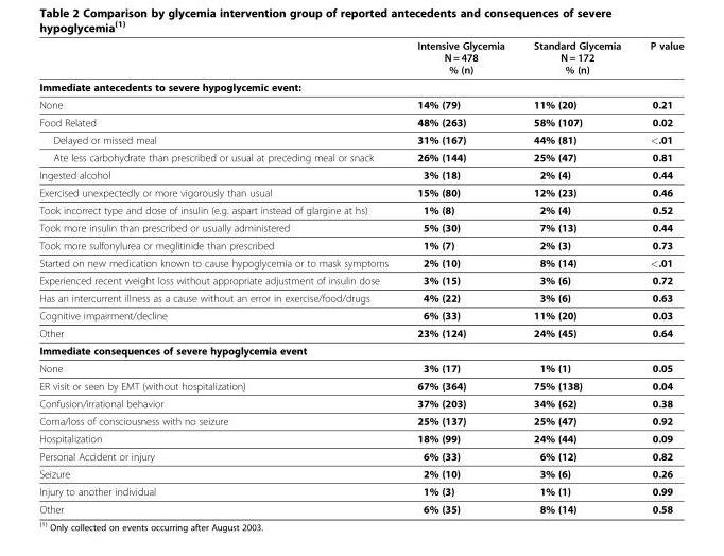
<table><thead><tr><td></td><td>Intensive Glycemia N = 478 % (n)</td><td>Standard Glycemia N = 172 % (n)</td><td>P value</td></tr></thead><tbody><tr><td colspan="4">Immediate antecedents to severe hypoglycemic event:</td></tr><tr><td>None</td><td>14% (79)</td><td>11% (20)</td><td>0.21</td></tr><tr><td>Food Related</td><td>48% (263)</td><td>58% (107)</td><td>0.02</td></tr><tr><td>Delayed or missed meal</td><td>31% (167)</td><td>44% (81)</td><td>&lt;.01</td></tr><tr><td>Ate less carbohydrate than prescribed or usual at preceding meal or snack</td><td>26% (144)</td><td>25% (47)</td><td>0.81</td></tr><tr><td>Ingested alcohol</td><td>3% (18)</td><td>2% (4)</td><td>0.44</td></tr><tr><td>Exercised unexpectedly or more vigorously than usual</td><td>15% (80)</td><td>12% (23)</td><td>0.46</td></tr><tr><td>Took incorrect type and dose of insulin (e.g. aspart instead of glargine at hs)</td><td>1% (8)</td><td>2% (4)</td><td>0.52</td></tr><tr><td>Took more insulin than prescribed or usually administered</td><td>5% (30)</td><td>7% (13)</td><td>0.44</td></tr><tr><td>Took more sulfonylurea or meglitinide than prescribed</td><td>1% (7)</td><td>2% (3)</td><td>0.73</td></tr><tr><td>Started on new medication known to cause hypoglycemia or to mask symptoms</td><td>2% (10)</td><td>8% (14)</td><td>&lt;.01</td></tr><tr><td>Experienced recent weight loss without appropriate adjustment of insulin dose</td><td>3% (15)</td><td>3% (6)</td><td>0.72</td></tr><tr><td>Has an intercurrent illness as a cause without an error in exercise/food/drugs</td><td>4% (22)</td><td>3% (6)</td><td>0.63</td></tr><tr><td>Cognitive impairment/decline</td><td>6% (33)</td><td>11% (20)</td><td>0.03</td></tr><tr><td>Other</td><td>23% (124)</td><td>24% (45)</td><td>0.64</td></tr><tr><td colspan="4">Immediate consequences of severe hypoglycemia event</td></tr><tr><td>None</td><td>3% (17)</td><td>1% (1)</td><td>0.05</td></tr><tr><td>ER visit or seen by EMT (without hospitalization)</td><td>67% (364)</td><td>75% (138)</td><td>0.04</td></tr><tr><td>Confusion/irrational behavior</td><td>37% (203)</td><td>34% (62)</td><td>0.38</td></tr><tr><td>Coma/loss of consciousness with no seizure</td><td>25% (137)</td><td>25% (47)</td><td>0.92</td></tr><tr><td>Hospitalization</td><td>18% (99)</td><td>24% (44)</td><td>0.09</td></tr><tr><td>Personal Accident or injury</td><td>6% (33)</td><td>6% (12)</td><td>0.82</td></tr><tr><td>Seizure</td><td>2% (10)</td><td>3% (6)</td><td>0.26</td></tr><tr><td>Injury to another individual</td><td>1% (3)</td><td>1% (1)</td><td>0.99</td></tr><tr><td>Other</td><td>6% (35)</td><td>8% (14)</td><td>0.58</td></tr></tbody></table>